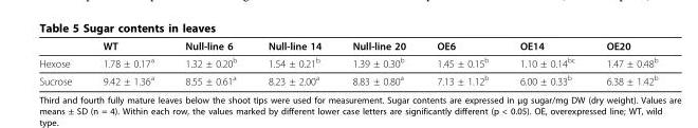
<table><thead><tr><td></td><td>WT</td><td>Null-line 6</td><td>Null-line 14</td><td>Null-line 20</td><td>OE6</td><td>OE14</td><td>OE20</td></tr></thead><tbody><tr><td>Hexose</td><td>1.78 ± 0.17<sup>a</sup></td><td>1.32 ± 0.20<sup>b</sup></td><td>1.54 ± 0.21<sup>b</sup></td><td>1.39 ± 0.30<sup>b</sup></td><td>1.45 ± 0.15<sup>b</sup></td><td>1.10 ± 0.14<sup>bc</sup></td><td>1.47 ± 0.48<sup>b</sup></td></tr><tr><td>Sucrose</td><td>9.42 ± 1.36<sup>a</sup></td><td>8.55 ± 0.61<sup>a</sup></td><td>8.23 ± 2.00<sup>a</sup></td><td>8.83 ± 0.80<sup>a</sup></td><td>7.13 ± 1.12<sup>b</sup></td><td>6.00 ± 0.33<sup>b</sup></td><td>6.38 ± 1.42<sup>b</sup></td></tr></tbody></table>